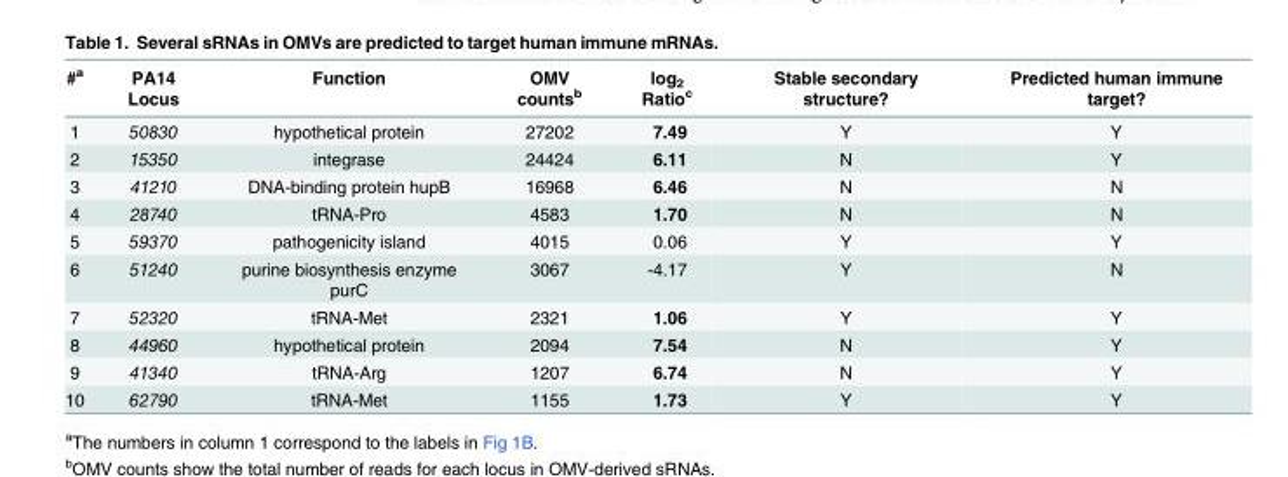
<table><thead><tr><td>#<sup>a</sup></td><td>PA14 Locus</td><td>Function</td><td>OMV counts<sup>b</sup></td><td>log<sub>2</sub> Ratio<sup>c</sup></td><td>Stable secondary structure?</td><td>Predicted human immune target?</td></tr></thead><tbody><tr><td>1</td><td>50830</td><td>hypothetical protein</td><td>27202</td><td>7.49</td><td>Y</td><td>Y</td></tr><tr><td>2</td><td>15350</td><td>integrase</td><td>24424</td><td>6.11</td><td>N</td><td>Y</td></tr><tr><td>3</td><td>41210</td><td>DNA-binding protein hupB</td><td>16968</td><td>6.46</td><td>N</td><td>N</td></tr><tr><td>4</td><td>28740</td><td>tRNA-Pro</td><td>4583</td><td>1.70</td><td>N</td><td>N</td></tr><tr><td>5</td><td>59370</td><td>pathogenicity island</td><td>4015</td><td>0.06</td><td>Y</td><td>Y</td></tr><tr><td>6</td><td>51240</td><td>purine biosynthesis enzyme purC</td><td>3067</td><td>-4.17</td><td>Y</td><td>N</td></tr><tr><td>7</td><td>52320</td><td>tRNA-Met</td><td>2321</td><td>1.06</td><td>Y</td><td>Y</td></tr><tr><td>8</td><td>44960</td><td>hypothetical protein</td><td>2094</td><td>7.54</td><td>N</td><td>Y</td></tr><tr><td>9</td><td>41340</td><td>tRNA-Arg</td><td>1207</td><td>6.74</td><td>N</td><td>Y</td></tr><tr><td>10</td><td>62790</td><td>tRNA-Met</td><td>1155</td><td>1.73</td><td>Y</td><td>Y</td></tr></tbody></table>